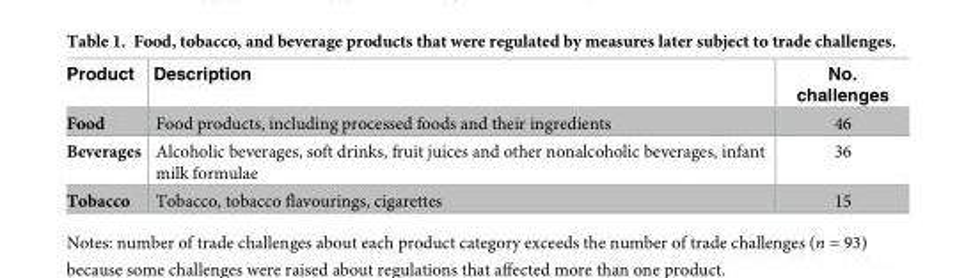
<table><thead><tr><td>Product</td><td>Description</td><td>No. challenges</td></tr></thead><tbody><tr><td>Food</td><td>Food products, including processed foods and their ingredients</td><td>46</td></tr><tr><td>Beverages</td><td>Alcoholic beverages, soft drinks, fruit juices and other nonalcoholic beverages, infant milk formulae</td><td>36</td></tr><tr><td>Tobacco</td><td>Tobacco, tobacco flavourings, cigarettes</td><td>15</td></tr></tbody></table>